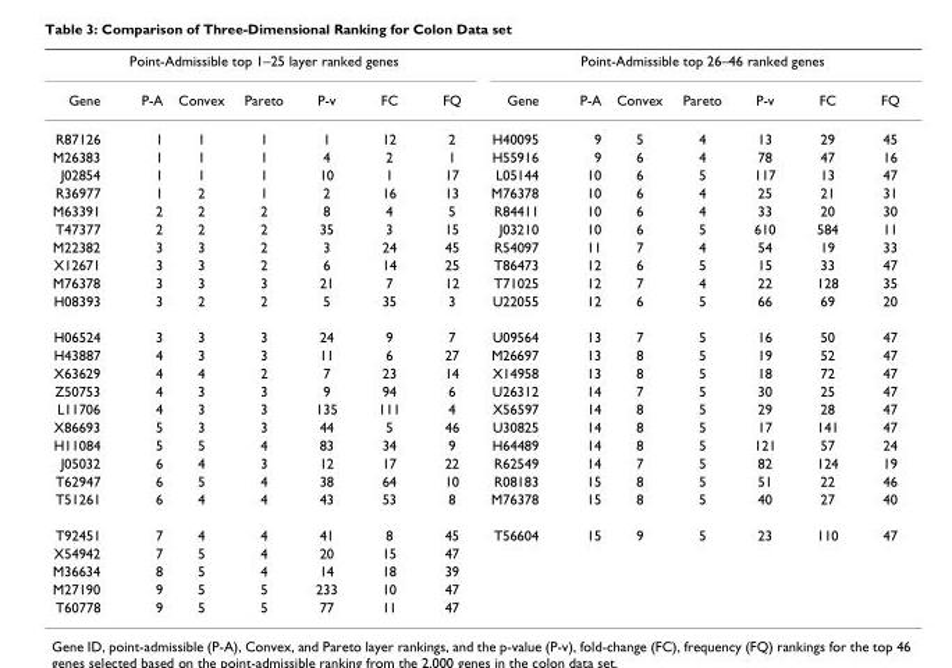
<table><thead><tr><td colspan="7">Point-Admissible top 1–25 layer ranked genes</td><td colspan="7">Point-Admissible top 26–46 ranked genes</td></tr><tr><td>Gene</td><td>P-A</td><td>Convex</td><td>Pareto</td><td>P-v</td><td>FC</td><td>FQ</td><td>Gene</td><td>P-A</td><td>Convex</td><td>Pareto</td><td>P-v</td><td>FC</td><td>FQ</td></tr></thead><tbody><tr><td>R87126</td><td>1</td><td>1</td><td>1</td><td>1</td><td>12</td><td>2</td><td>H40095</td><td>9</td><td>5</td><td>4</td><td>13</td><td>29</td><td>45</td></tr><tr><td>M26383</td><td>1</td><td>1</td><td>1</td><td>4</td><td>2</td><td>1</td><td>H55916</td><td>9</td><td>6</td><td>4</td><td>78</td><td>47</td><td>16</td></tr><tr><td>J02854</td><td>1</td><td>1</td><td>1</td><td>10</td><td>1</td><td>17</td><td>L05144</td><td>10</td><td>6</td><td>5</td><td>117</td><td>13</td><td>47</td></tr><tr><td>R36977</td><td>1</td><td>2</td><td>1</td><td>2</td><td>16</td><td>13</td><td>M76378</td><td>10</td><td>6</td><td>4</td><td>25</td><td>21</td><td>31</td></tr><tr><td>M63391</td><td>2</td><td>2</td><td>2</td><td>8</td><td>4</td><td>5</td><td>R84411</td><td>10</td><td>6</td><td>4</td><td>33</td><td>20</td><td>30</td></tr><tr><td>T47377</td><td>2</td><td>2</td><td>2</td><td>35</td><td>3</td><td>15</td><td>J03210</td><td>10</td><td>6</td><td>5</td><td>610</td><td>584</td><td>11</td></tr><tr><td>M22382</td><td>3</td><td>3</td><td>2</td><td>3</td><td>24</td><td>45</td><td>R54097</td><td>11</td><td>7</td><td>4</td><td>54</td><td>19</td><td>33</td></tr><tr><td>X12671</td><td>3</td><td>3</td><td>2</td><td>6</td><td>14</td><td>25</td><td>T86473</td><td>12</td><td>6</td><td>5</td><td>15</td><td>33</td><td>47</td></tr><tr><td>M76378</td><td>3</td><td>3</td><td>3</td><td>21</td><td>7</td><td>12</td><td>T71025</td><td>12</td><td>7</td><td>4</td><td>22</td><td>128</td><td>35</td></tr><tr><td>H08393</td><td>3</td><td>2</td><td>2</td><td>5</td><td>35</td><td>3</td><td>U22055</td><td>12</td><td>6</td><td>5</td><td>66</td><td>69</td><td>20</td></tr><tr><td>H06524</td><td>3</td><td>3</td><td>3</td><td>24</td><td>9</td><td>7</td><td>U09564</td><td>13</td><td>7</td><td>5</td><td>16</td><td>50</td><td>47</td></tr><tr><td>H43887</td><td>4</td><td>3</td><td>3</td><td>11</td><td>6</td><td>27</td><td>M26697</td><td>13</td><td>8</td><td>5</td><td>19</td><td>52</td><td>47</td></tr><tr><td>X63629</td><td>4</td><td>4</td><td>2</td><td>7</td><td>23</td><td>14</td><td>X14958</td><td>13</td><td>8</td><td>5</td><td>18</td><td>72</td><td>47</td></tr><tr><td>Z50753</td><td>4</td><td>3</td><td>3</td><td>9</td><td>94</td><td>6</td><td>U26312</td><td>14</td><td>7</td><td>5</td><td>30</td><td>25</td><td>47</td></tr><tr><td>L11706</td><td>4</td><td>3</td><td>3</td><td>135</td><td>111</td><td>4</td><td>X56597</td><td>14</td><td>8</td><td>5</td><td>29</td><td>28</td><td>47</td></tr><tr><td>X86693</td><td>5</td><td>3</td><td>3</td><td>44</td><td>5</td><td>46</td><td>U30825</td><td>14</td><td>8</td><td>5</td><td>17</td><td>141</td><td>47</td></tr><tr><td>H11084</td><td>5</td><td>5</td><td>4</td><td>83</td><td>34</td><td>9</td><td>H64489</td><td>14</td><td>8</td><td>5</td><td>121</td><td>57</td><td>24</td></tr><tr><td>J05032</td><td>6</td><td>4</td><td>3</td><td>12</td><td>17</td><td>22</td><td>R62549</td><td>14</td><td>7</td><td>5</td><td>82</td><td>124</td><td>19</td></tr><tr><td>T62947</td><td>6</td><td>5</td><td>4</td><td>38</td><td>64</td><td>10</td><td>R08183</td><td>15</td><td>8</td><td>5</td><td>51</td><td>22</td><td>46</td></tr><tr><td>T51261</td><td>6</td><td>4</td><td>4</td><td>43</td><td>53</td><td>8</td><td>M76378</td><td>15</td><td>8</td><td>5</td><td>40</td><td>27</td><td>40</td></tr><tr><td>T92451</td><td>7</td><td>4</td><td>4</td><td>41</td><td>8</td><td>45</td><td>T56604</td><td>15</td><td>9</td><td>5</td><td>23</td><td>110</td><td>47</td></tr><tr><td>X54942</td><td>7</td><td>5</td><td>4</td><td>20</td><td>15</td><td>47</td><td></td><td></td><td></td><td></td><td></td><td></td><td></td></tr><tr><td>M36634</td><td>8</td><td>5</td><td>4</td><td>14</td><td>18</td><td>39</td><td></td><td></td><td></td><td></td><td></td><td></td><td></td></tr><tr><td>M27190</td><td>9</td><td>5</td><td>5</td><td>233</td><td>10</td><td>47</td><td></td><td></td><td></td><td></td><td></td><td></td><td></td></tr><tr><td>T60778</td><td>9</td><td>5</td><td>5</td><td>77</td><td>11</td><td>47</td><td></td><td></td><td></td><td></td><td></td><td></td><td></td></tr></tbody></table>